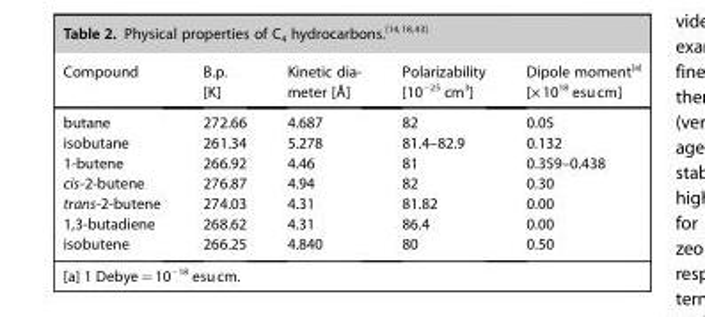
<table><thead><tr><td>Compound</td><td>B.p. [K]</td><td>Kinetic dia- meter [�]</td><td>Polarizability [10<sup>−25</sup> cm<sup>3</sup>]</td><td>Dipole moment<sup>[a]</sup> [×10<sup>18</sup> esucm]</td></tr></thead><tbody><tr><td>butane</td><td>272.66</td><td>4.687</td><td>82</td><td>0.05</td></tr><tr><td>isobutane</td><td>261.34</td><td>5.278</td><td>81.4–82.9</td><td>0.132</td></tr><tr><td>1-butene</td><td>266.92</td><td>4.46</td><td>81</td><td>0.359–0.438</td></tr><tr><td>cis-2-butene</td><td>276.87</td><td>4.94</td><td>82</td><td>0.30</td></tr><tr><td>trans-2-butene</td><td>274.03</td><td>4.31</td><td>81.82</td><td>0.00</td></tr><tr><td>1,3-butadiene</td><td>268.62</td><td>4.31</td><td>86.4</td><td>0.00</td></tr><tr><td>isobutene</td><td>266.25</td><td>4.840</td><td>80</td><td>0.50</td></tr></tbody></table>